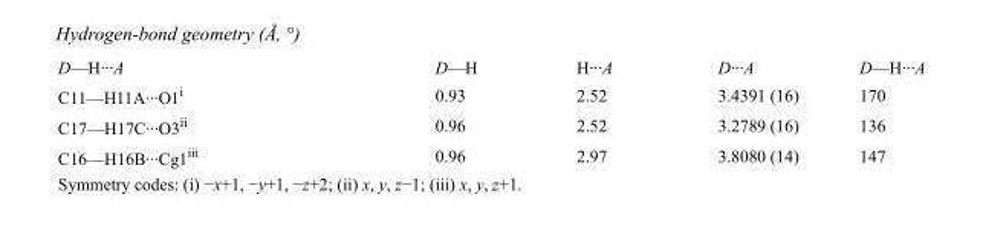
<table><tbody><tr><td>D—H···A</td><td>D—H</td><td>H···A</td><td>D···A</td><td>D—H···A</td></tr><tr><td>C11—H11A···O1<sup>i</sup></td><td>0.93</td><td>2.52</td><td>3.4391 (16)</td><td>170</td></tr><tr><td>C17—H17C···O3<sup>ii</sup></td><td>0.96</td><td>2.52</td><td>3.2789 (16)</td><td>136</td></tr><tr><td>C16—H16B···Cg1<sup>iii</sup></td><td>0.96</td><td>2.97</td><td>3.8080 (14)</td><td>147</td></tr></tbody></table>